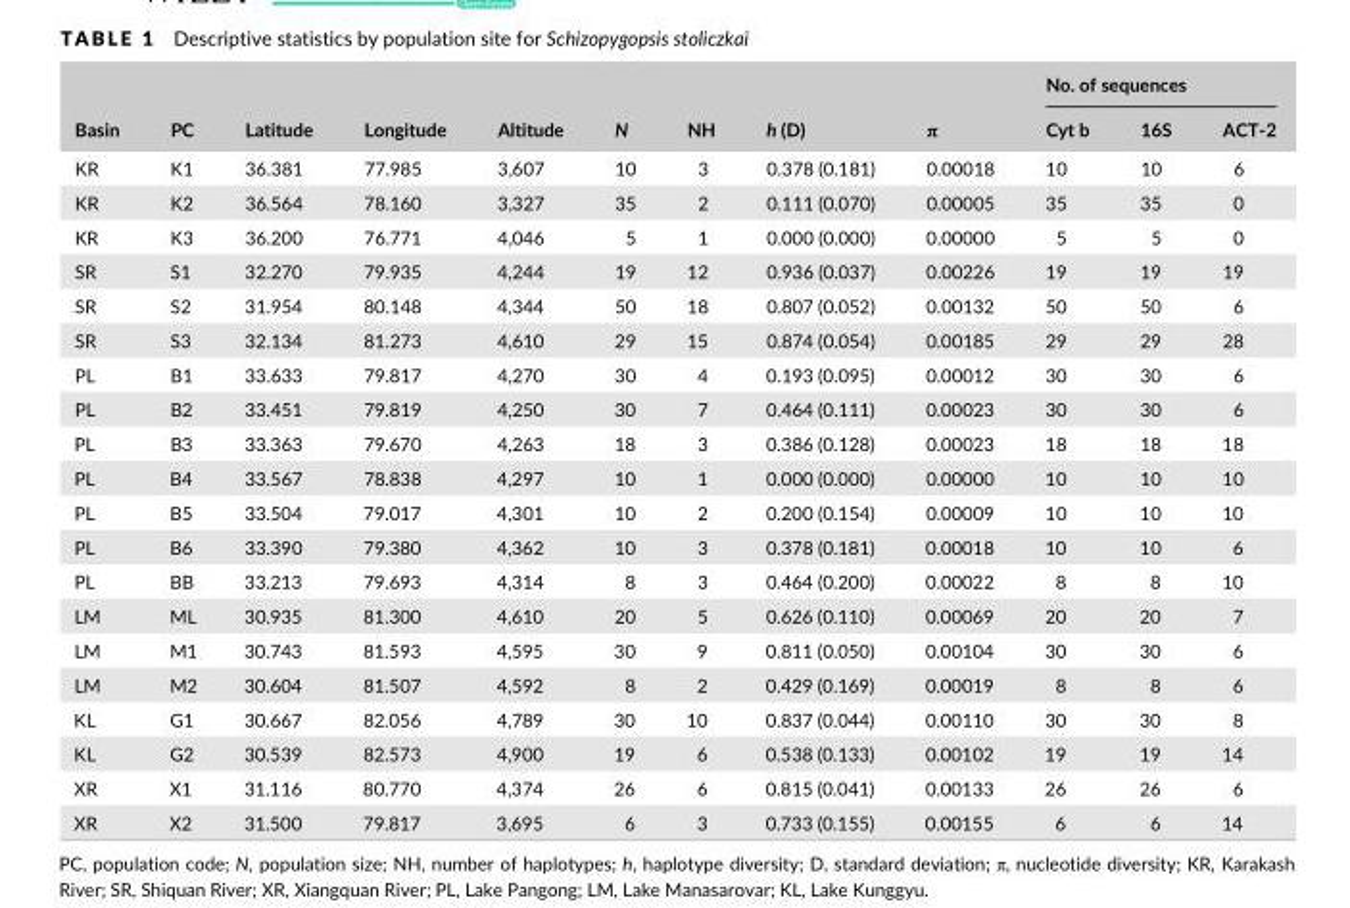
<table><thead><tr><td rowspan="2">Basin</td><td rowspan="2">PC</td><td rowspan="2">Latitude</td><td rowspan="2">Longitude</td><td rowspan="2">Altitude</td><td rowspan="2">N</td><td rowspan="2">NH</td><td rowspan="2">h (D)</td><td rowspan="2">π</td><td colspan="3">No. of sequences</td></tr><tr><td>Cyt b</td><td>16S</td><td>ACT- 2</td></tr></thead><tbody><tr><td>KR</td><td>K1</td><td>36.381</td><td>77.985</td><td>3,607</td><td>10</td><td>3</td><td>0.378 (0.181)</td><td>0.00018</td><td>10</td><td>10</td><td>6</td></tr><tr><td>KR</td><td>K2</td><td>36.564</td><td>78.160</td><td>3,327</td><td>35</td><td>2</td><td>0.111 (0.070)</td><td>0.00005</td><td>35</td><td>35</td><td>0</td></tr><tr><td>KR</td><td>K3</td><td>36.200</td><td>76.771</td><td>4,046</td><td>5</td><td>1</td><td>0.000 (0.000)</td><td>0.00000</td><td>5</td><td>5</td><td>0</td></tr><tr><td>SR</td><td>S1</td><td>32.270</td><td>79.935</td><td>4,244</td><td>19</td><td>12</td><td>0.936 (0.037)</td><td>0.00226</td><td>19</td><td>19</td><td>19</td></tr><tr><td>SR</td><td>S2</td><td>31.954</td><td>80.148</td><td>4,344</td><td>50</td><td>18</td><td>0.807 (0.052)</td><td>0.00132</td><td>50</td><td>50</td><td>6</td></tr><tr><td>SR</td><td>S3</td><td>32.134</td><td>81.273</td><td>4,610</td><td>29</td><td>15</td><td>0.874 (0.054)</td><td>0.00185</td><td>29</td><td>29</td><td>28</td></tr><tr><td>PL</td><td>B1</td><td>33.633</td><td>79.817</td><td>4,270</td><td>30</td><td>4</td><td>0.193 (0.095)</td><td>0.00012</td><td>30</td><td>30</td><td>6</td></tr><tr><td>PL</td><td>B2</td><td>33.451</td><td>79.819</td><td>4,250</td><td>30</td><td>7</td><td>0.464 (0.111)</td><td>0.00023</td><td>30</td><td>30</td><td>6</td></tr><tr><td>PL</td><td>B3</td><td>33.363</td><td>79.670</td><td>4,263</td><td>18</td><td>3</td><td>0.386 (0.128)</td><td>0.00023</td><td>18</td><td>18</td><td>18</td></tr><tr><td>PL</td><td>B4</td><td>33.567</td><td>78.838</td><td>4,297</td><td>10</td><td>1</td><td>0.000 (0.000)</td><td>0.00000</td><td>10</td><td>10</td><td>10</td></tr><tr><td>PL</td><td>B5</td><td>33.504</td><td>79.017</td><td>4,301</td><td>10</td><td>2</td><td>0.200 (0.154)</td><td>0.00009</td><td>10</td><td>10</td><td>10</td></tr><tr><td>PL</td><td>B6</td><td>33.390</td><td>79.380</td><td>4,362</td><td>10</td><td>3</td><td>0.378 (0.181)</td><td>0.00018</td><td>10</td><td>10</td><td>6</td></tr><tr><td>PL</td><td>BB</td><td>33.213</td><td>79.693</td><td>4,314</td><td>8</td><td>3</td><td>0.464 (0.200)</td><td>0.00022</td><td>8</td><td>8</td><td>10</td></tr><tr><td>LM</td><td>ML</td><td>30.935</td><td>81.300</td><td>4,610</td><td>20</td><td>5</td><td>0.626 (0.110)</td><td>0.00069</td><td>20</td><td>20</td><td>7</td></tr><tr><td>LM</td><td>M1</td><td>30.743</td><td>81.593</td><td>4,595</td><td>30</td><td>9</td><td>0.811 (0.050)</td><td>0.00104</td><td>30</td><td>30</td><td>6</td></tr><tr><td>LM</td><td>M2</td><td>30.604</td><td>81.507</td><td>4,592</td><td>8</td><td>2</td><td>0.429 (0.169)</td><td>0.00019</td><td>8</td><td>8</td><td>6</td></tr><tr><td>KL</td><td>G1</td><td>30.667</td><td>82.056</td><td>4,789</td><td>30</td><td>10</td><td>0.837 (0.044)</td><td>0.00110</td><td>30</td><td>30</td><td>8</td></tr><tr><td>KL</td><td>G2</td><td>30.539</td><td>82.573</td><td>4,900</td><td>19</td><td>6</td><td>0.538 (0.133)</td><td>0.00102</td><td>19</td><td>19</td><td>14</td></tr><tr><td>XR</td><td>X1</td><td>31.116</td><td>80.770</td><td>4,374</td><td>26</td><td>6</td><td>0.815 (0.041)</td><td>0.00133</td><td>26</td><td>26</td><td>6</td></tr><tr><td>XR</td><td>X2</td><td>31.500</td><td>79.817</td><td>3,695</td><td>6</td><td>3</td><td>0.733 (0.155)</td><td>0.00155</td><td>6</td><td>6</td><td>14</td></tr></tbody></table>